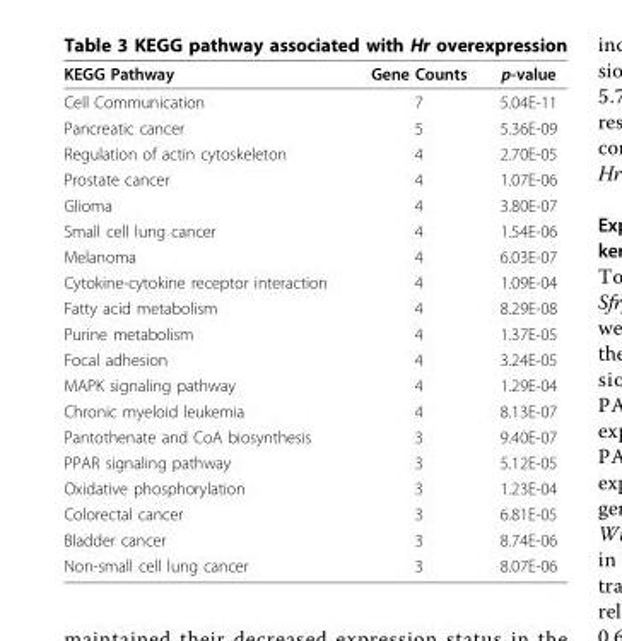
<table><thead><tr><td>KEGG Pathway</td><td>Gene Counts</td><td>p-value</td></tr></thead><tbody><tr><td>Cell Communication</td><td>7</td><td>5.04E-11</td></tr><tr><td>Pancreatic cancer</td><td>5</td><td>5.36E-09</td></tr><tr><td>Regulation of actin cytoskeleton</td><td>4</td><td>2.70E-05</td></tr><tr><td>Prostate cancer</td><td>4</td><td>1.07E-06</td></tr><tr><td>Glioma</td><td>4</td><td>3.80E-07</td></tr><tr><td>Small cell lung cancer</td><td>4</td><td>1.54E-06</td></tr><tr><td>Melanoma</td><td>4</td><td>6.03E-07</td></tr><tr><td>Cytokine-cytokine receptor interaction</td><td>4</td><td>1.09E-04</td></tr><tr><td>Fatty acid metabolism</td><td>4</td><td>8.29E-08</td></tr><tr><td>Purine metabolism</td><td>4</td><td>1.37E-05</td></tr><tr><td>Focal adhesion</td><td>4</td><td>3.24E-05</td></tr><tr><td>MAPK signaling pathway</td><td>4</td><td>1.29E-04</td></tr><tr><td>Chronic myeloid leukemia</td><td>4</td><td>8.13E-07</td></tr><tr><td>Pantothenate and CoA biosynthesis</td><td>3</td><td>9.40E-07</td></tr><tr><td>PPAR signaling pathway</td><td>3</td><td>5.12E-05</td></tr><tr><td>Oxidative phosphorylation</td><td>3</td><td>1.23E-04</td></tr><tr><td>Colorectal cancer</td><td>3</td><td>6.81E-05</td></tr><tr><td>Bladder cancer</td><td>3</td><td>8.74E-06</td></tr><tr><td>Non-small cell lung cancer</td><td>3</td><td>8.07E-06</td></tr></tbody></table>